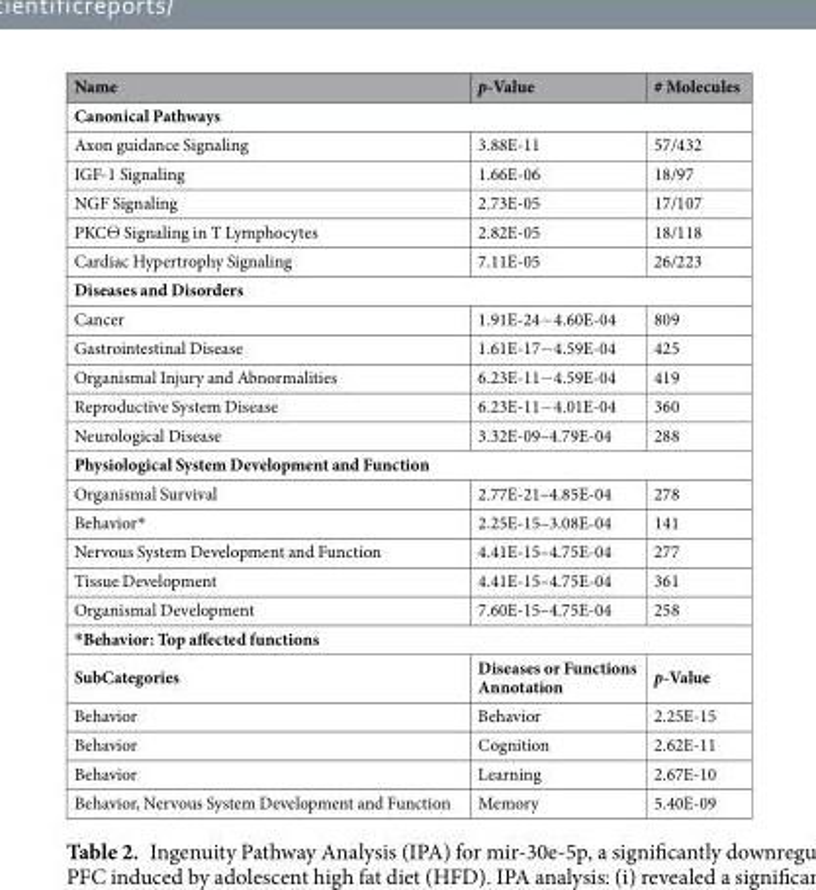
<table><thead><tr><td>Name</td><td>p-Value</td><td># Molecules</td></tr></thead><tbody><tr><td colspan="3">Canonical Pathways</td></tr><tr><td>Axon guidance Signaling</td><td>3.88E-11</td><td>57/432</td></tr><tr><td>IGF-1 Signaling</td><td>1.66E-06</td><td>18/97</td></tr><tr><td>NGF Signaling</td><td>2.73E-05</td><td>17/107</td></tr><tr><td>PKCΘ Signaling in T Lymphocytes</td><td>2.82E-05</td><td>18/118</td></tr><tr><td>Cardiac Hypertrophy Signaling</td><td>7.11E-05</td><td>26/223</td></tr><tr><td colspan="3">Diseases and Disorders</td></tr><tr><td>Cancer</td><td>1.91E-24−4.60E-04</td><td>809</td></tr><tr><td>Gastrointestinal Disease</td><td>1.61E-17−4.59E-04</td><td>425</td></tr><tr><td>Organismal Injury and Abnormalities</td><td>6.23E-11−4.59E-04</td><td>419</td></tr><tr><td>Reproductive System Disease</td><td>6.23E-11−4.01E-04</td><td>360</td></tr><tr><td>Neurological Disease</td><td>3.32E-09–4.79E-04</td><td>288</td></tr><tr><td colspan="3">Physiological System Development and Function</td></tr><tr><td>Organismal Survival</td><td>2.77E-21–4.85E-04</td><td>278</td></tr><tr><td>Behavior*</td><td>2.25E-15–3.08E-04</td><td>141</td></tr><tr><td>Nervous System Development and Function</td><td>4.41E-15–4.75E-04</td><td>277</td></tr><tr><td>Tissue Development</td><td>4.41E-15–4.75E-04</td><td>361</td></tr><tr><td>Organismal Development</td><td>7.60E-15–4.75E-04</td><td>258</td></tr><tr><td colspan="3">*Behavior: Top affected functions</td></tr><tr><td>SubCategories</td><td>Diseases or Functions Annotation</td><td>p-Value</td></tr><tr><td>Behavior</td><td>Behavior</td><td>2.25E-15</td></tr><tr><td>Behavior</td><td>Cognition</td><td>2.62E-11</td></tr><tr><td>Behavior</td><td>Learning</td><td>2.67E-10</td></tr><tr><td>Behavior, Nervous System Development and Function</td><td>Memory</td><td>5.40E-09</td></tr></tbody></table>